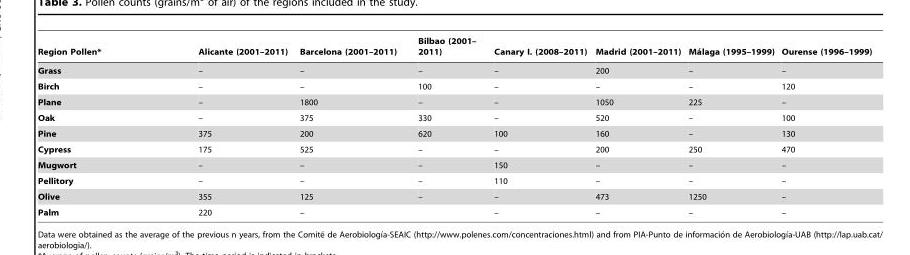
<table><thead><tr><td>Region Pollen*</td><td>Alicante (2001–2011)</td><td>Barcelona (2001–2011)</td><td>Bilbao (2001– 2011)</td><td>Canary I. (2008–2011)</td><td>Madrid (2001–2011)</td><td>Ma´laga (1995–1999)</td><td>Ourense (1996–1999)</td></tr></thead><tbody><tr><td>Grass</td><td>–</td><td>–</td><td>–</td><td>–</td><td>200</td><td>–</td><td>–</td></tr><tr><td>Birch</td><td>–</td><td>–</td><td>100</td><td>–</td><td>–</td><td>–</td><td>120</td></tr><tr><td>Plane</td><td>–</td><td>1800</td><td>–</td><td>–</td><td>1050</td><td>225</td><td>–</td></tr><tr><td>Oak</td><td>–</td><td>375</td><td>330</td><td>–</td><td>520</td><td>–</td><td>100</td></tr><tr><td>Pine</td><td>375</td><td>200</td><td>620</td><td>100</td><td>160</td><td>–</td><td>130</td></tr><tr><td>Cypress</td><td>175</td><td>525</td><td>–</td><td>–</td><td>200</td><td>250</td><td>470</td></tr><tr><td>Mugwort</td><td>–</td><td>–</td><td>–</td><td>150</td><td>–</td><td>–</td><td>–</td></tr><tr><td>Pellitory</td><td>–</td><td>–</td><td>–</td><td>110</td><td>–</td><td>–</td><td>–</td></tr><tr><td>Olive</td><td>355</td><td>125</td><td>–</td><td>–</td><td>473</td><td>1250</td><td>–</td></tr><tr><td>Palm</td><td>220</td><td>–</td><td></td><td>–</td><td>–</td><td>–</td><td>–</td></tr></tbody></table>